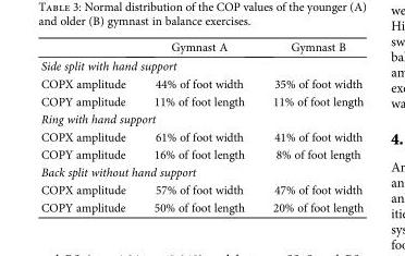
<table><thead><tr><td></td><td>Gymnast A</td><td>Gymnast B</td></tr></thead><tbody><tr><td colspan="3">Side split with hand support</td></tr><tr><td>COPX amplitude</td><td>44% of foot width</td><td>35% of foot width</td></tr><tr><td>COPY amplitude</td><td>11% of foot length</td><td>11% of foot length</td></tr><tr><td colspan="3">Ring with hand support</td></tr><tr><td>COPX amplitude</td><td>61% of foot width</td><td>41% of foot width</td></tr><tr><td>COPY amplitude</td><td>16% of foot length</td><td>8% of foot length</td></tr><tr><td colspan="3">Back split without hand support</td></tr><tr><td>COPX amplitude</td><td>57% of foot width</td><td>47% of foot width</td></tr><tr><td>COPY amplitude</td><td>50% of foot length</td><td>20% of foot length</td></tr></tbody></table>